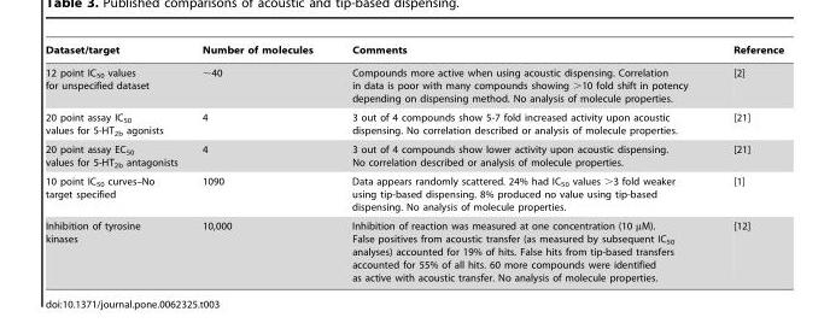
<table><thead><tr><td>Dataset/target</td><td>Number of molecules</td><td>Comments</td><td>Reference</td></tr></thead><tbody><tr><td>12 point IC<sub>50</sub> values for unspecified dataset</td><td>∼40</td><td>Compounds more active when using acoustic dispensing. Correlation in data is poor with many compounds showing &gt;10 fold shift in potency depending on dispensing method. No analysis of molecule properties.</td><td>[2]</td></tr><tr><td>20 point assay IC<sub>50</sub> values for 5-HT<sub>2b</sub> agonists</td><td>4</td><td>3 out of 4 compounds show 5-7 fold increased activity upon acoustic dispensing. No correlation described or analysis of molecule properties.</td><td>[21]</td></tr><tr><td>20 point assay EC<sub>50</sub> values for 5-HT<sub>2b</sub> antagonists</td><td>4</td><td>3 out of 4 compounds show lower activity upon acoustic dispensing. No correlation described or analysis of molecule properties.</td><td>[21]</td></tr><tr><td>10 point IC<sub>50</sub> curves–No target specified</td><td>1090</td><td>Data appears randomly scattered. 24% had IC<sub>50</sub> values &gt;3 fold weaker using tip-based dispensing. 8% produced no value using tip-based dispensing. No analysis of molecule properties.</td><td>[1]</td></tr><tr><td>Inhibition of tyrosine kinases</td><td>10,000</td><td>Inhibition of reaction was measured at one concentration (10 µM). False positives from acoustic transfer (as measured by subsequent IC<sub>50</sub> analyses) accounted for 19% of hits. False hits from tip-based transfers accounted for 55% of all hits. 60 more compounds were identified as active with acoustic transfer. No analysis of molecule properties.</td><td>[12]</td></tr></tbody></table>